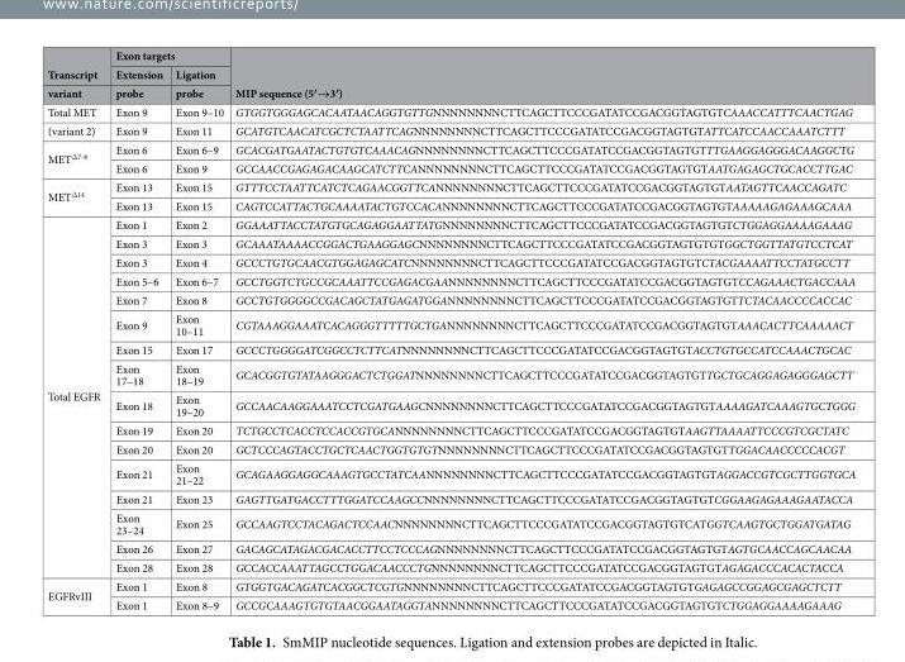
<table><thead><tr><td rowspan="3">Transcript variant</td><td colspan="2">Exon targets</td><td rowspan="3">MIP sequence (5′→3′)</td></tr><tr><td rowspan="2">Extension probe</td><td rowspan="2">Ligation probe</td></tr><tr></tr></thead><tbody><tr><td>Total MET</td><td>Exon 9</td><td>Exon 9–10</td><td>GTGGTGGGAGCACAATAACAGGTGTTGNNNNNNNNCTTCAGCTTCCCGATATCCGACGGTAGTGTCAAACCATTTCAACTGAG</td></tr><tr><td>(variant 2)</td><td>Exon 9</td><td>Exon 11</td><td>GCATGTCAACATCGCTCTAATTCAGNNNNNNNNCTTCAGCTTCCCGATATCCGACGGTAGTGTATTCATCCAACCAAATCTTT</td></tr><tr><td rowspan="2">MET<sup>Δ7-8</sup></td><td>Exon 6</td><td>Exon 6–9</td><td>GCACGATGAATACTGTGTCAAACAGNNNNNNNNCTTCAGCTTCCCGATATCCGACGGTAGTGTTTGAAGGAGGGACAAGGCTG</td></tr><tr><td>Exon 6</td><td>Exon 9</td><td>GCCAACCGAGAGACAAGCATCTTCANNNNNNNNCTTCAGCTTCCCGATATCCGACGGTAGTGTAATGAGAGCTGCACCTTGAC</td></tr><tr><td rowspan="2">MET<sup>Δ14</sup></td><td>Exon 13</td><td>Exon 15</td><td>GTTTCCTAATTCATCTCAGAACGGTTCANNNNNNNNCTTCAGCTTCCCGATATCCGACGGTAGTGTAATAGTTCAACCAGATC</td></tr><tr><td>Exon 13</td><td>Exon 15</td><td>CAGTCCATTACTGCAAAATACTGTCCACANNNNNNNNCTTCAGCTTCCCGATATCCGACGGTAGTGTAAAAAGAGAAAGCAAA</td></tr><tr><td rowspan="16">Total EGFR</td><td>Exon 1</td><td>Exon 2</td><td>GGAAATTACCTATGTGCAGAGGAATTATGNNNNNNNNCTTCAGCTTCCCGATATCCGACGGTAGTGTCTGGAGGAAAAGAAAG</td></tr><tr><td>Exon 3</td><td>Exon 3</td><td>GCAAATAAAACCGGACTGAAGGAGCNNNNNNNNCTTCAGCTTCCCGATATCCGACGGTAGTGTGTGGCTGGTTATGTCCTCAT</td></tr><tr><td>Exon 3</td><td>Exon 4</td><td>GCCCTGTGCAACGTGGAGAGCATCNNNNNNNNCTTCAGCTTCCCGATATCCGACGGTAGTGTCTACGAAAATTCCTATGCCTT</td></tr><tr><td>Exon 5–6</td><td>Exon 6–7</td><td>GCCTGGTCTGCCGCAAATTCCGAGACGAANNNNNNNNCTTCAGCTTCCCGATATCCGACGGTAGTGTCCAGAAACTGACCAAA</td></tr><tr><td>Exon 7</td><td>Exon 8</td><td>GCCTGTGGGGCCGACAGCTATGAGATGGANNNNNNNNCTTCAGCTTCCCGATATCCGACGGTAGTGTTCTACAACCCCACCAC</td></tr><tr><td>Exon 9</td><td>Exon 10–11</td><td>CGTAAAGGAAATCACAGGGTTTTTGCTGANNNNNNNNCTTCAGCTTCCCGATATCCGACGGTAGTGTAAACACTTCAAAAACT</td></tr><tr><td>Exon 15</td><td>Exon 17</td><td>GCCCTGGGGATCGGCCTCTTCATNNNNNNNNCTTCAGCTTCCCGATATCCGACGGTAGTGTACCTGTGCCATCCAAACTGCAC</td></tr><tr><td>Exon 17–18</td><td>Exon 18–19</td><td>GCACGGTGTATAAGGGACTCTGGATNNNNNNNNCTTCAGCTTCCCGATATCCGACGGTAGTGTTGCTGCAGGAGAGGGAGCTT</td></tr><tr><td>Exon 18</td><td>Exon 19–20</td><td>GCCAACAAGGAAATCCTCGATGAAGCNNNNNNNNCTTCAGCTTCCCGATATCCGACGGTAGTGTAAAAGATCAAAGTGCTGGG</td></tr><tr><td>Exon 19</td><td>Exon 20</td><td>TCTGCCTCACCTCCACCGTGCANNNNNNNNCTTCAGCTTCCCGATATCCGACGGTAGTGTAAGTTAAAATTCCCGTCGCTATC</td></tr><tr><td>Exon 20</td><td>Exon 20</td><td>GCTCCCAGTACCTGCTCAACTGGTGTGTNNNNNNNNCTTCAGCTTCCCGATATCCGACGGTAGTGTTGGACAACCCCCACGT</td></tr><tr><td>Exon 21</td><td>Exon 21–22</td><td>GCAGAAGGAGGCAAAGTGCCTATCAANNNNNNNNCTTCAGCTTCCCGATATCCGACGGTAGTGTAGGACCGTCGCTTGGTGCA</td></tr><tr><td>Exon 21</td><td>Exon 23</td><td>GAGTTGATGACCTTTGGATCCAAGCCNNNNNNNNCTTCAGCTTCCCGATATCCGACGGTAGTGTCGGAAGAGAAAGAATACCA</td></tr><tr><td>Exon 23–24</td><td>Exon 25</td><td>GCCAAGTCCTACAGACTCCAACNNNNNNNNCTTCAGCTTCCCGATATCCGACGGTAGTGTCATGGTCAAGTGCTGGATGATAG</td></tr><tr><td>Exon 26</td><td>Exon 27</td><td>GACAGCATAGACGACACCTTCCTCCCAGNNNNNNNNCTTCAGCTTCCCGATATCCGACGGTAGTGTAGTGCAACCAGCAACAA</td></tr><tr><td>Exon 28</td><td>Exon 28</td><td>GCCACCAAATTAGCCTGGACAACCCTGNNNNNNNNCTTCAGCTTCCCGATATCCGACGGTAGTGTAGAGACCCACACTACCA</td></tr><tr><td rowspan="2">EGFRvIII</td><td>Exon 1</td><td>Exon 8</td><td>GTGGTGACAGATCACGGCTCGTGNNNNNNNNCTTCAGCTTCCCGATATCCGACGGTAGTGTGAGAGCCGGAGCGAGCTCTT</td></tr><tr><td>Exon 1</td><td>Exon 8–9</td><td>GCCGCAAAGTGTGTAACGGAATAGGTANNNNNNNNCTTCAGCTTCCCGATATCCGACGGTAGTGTCTGGAGGAAAAGAAAG</td></tr></tbody></table>